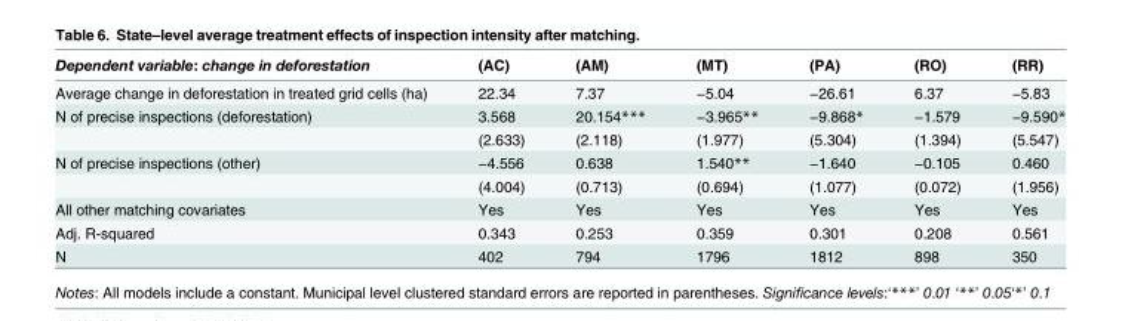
<table><thead><tr><td>Dependent variable: change in deforestation</td><td>(AC)</td><td>(AM)</td><td>(MT)</td><td>(PA)</td><td>(RO)</td><td>(RR)</td></tr></thead><tbody><tr><td>Average change in deforestation in treated grid cells (ha)</td><td>22.34</td><td>7.37</td><td>−5.04</td><td>−26.61</td><td>6.37</td><td>−5.83</td></tr><tr><td rowspan="2">N of precise inspections (deforestation)</td><td>3.568</td><td>20.154***</td><td>−3.965**</td><td>−9.868*</td><td>−1.579</td><td>−9.590*</td></tr><tr><td>(2.633)</td><td>(2.118)</td><td>(1.977)</td><td>(5.304)</td><td>(1.394)</td><td>(5.547)</td></tr><tr><td rowspan="2">N of precise inspections (other)</td><td>−4.556</td><td>0.638</td><td>1.540**</td><td>−1.640</td><td>−0.105</td><td>0.460</td></tr><tr><td>(4.004)</td><td>(0.713)</td><td>(0.694)</td><td>(1.077)</td><td>(0.072)</td><td>(1.956)</td></tr><tr><td>All other matching covariates</td><td>Yes</td><td>Yes</td><td>Yes</td><td>Yes</td><td>Yes</td><td>Yes</td></tr><tr><td>Adj. R-squared</td><td>0.343</td><td>0.253</td><td>0.359</td><td>0.301</td><td>0.208</td><td>0.561</td></tr><tr><td>N</td><td>402</td><td>794</td><td>1796</td><td>1812</td><td>898</td><td>350</td></tr></tbody></table>